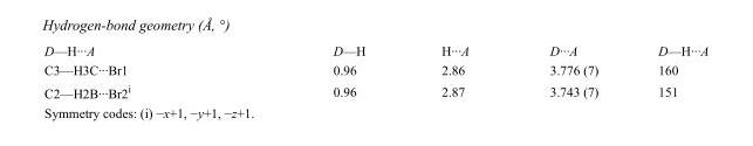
<table><tbody><tr><td>D—H···A</td><td>D—H</td><td>H···A</td><td>D···A</td><td>D—H···A</td></tr><tr><td>C3—H3C···Br1</td><td>0.96</td><td>2.86</td><td>3.776 (7)</td><td>160</td></tr><tr><td>C2—H2B···Br2<sup>i</sup></td><td>0.96</td><td>2.87</td><td>3.743 (7)</td><td>151</td></tr></tbody></table>